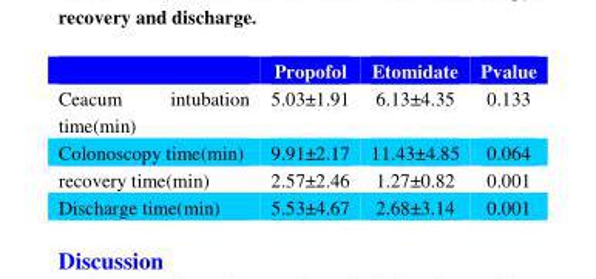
<table><thead><tr><td></td><td>Propofol</td><td>Etomidate</td><td>Pvalue</td></tr></thead><tbody><tr><td>Ceacum intubation time(min)</td><td>5.03±1.91</td><td>6.13±4.35</td><td>0.133</td></tr><tr><td>Colonoscopy time(min)</td><td>9.91±2.17</td><td>11.43±4.85</td><td>0.064</td></tr><tr><td>recovery time(min)</td><td>2.57±2.46</td><td>1.27±0.82</td><td>0.001</td></tr><tr><td>Discharge time(min)</td><td>5.53±4.67</td><td>2.68±3.14</td><td>0.001</td></tr></tbody></table>